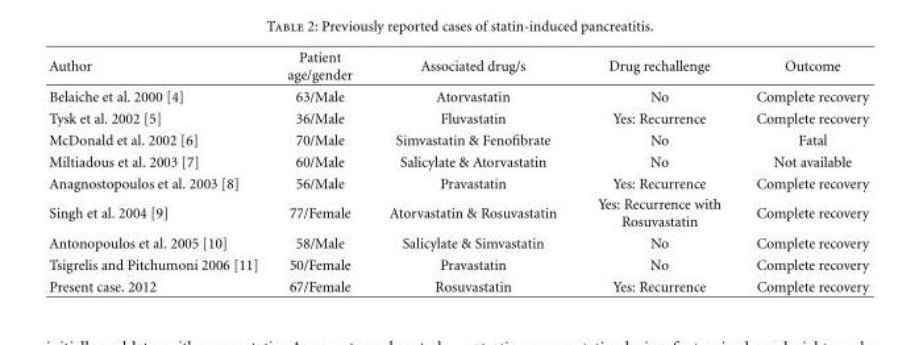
<table><thead><tr><td>Author</td><td>Patient age/gender</td><td>Associated drug/s</td><td>Drug rechallenge</td><td>Outcome</td></tr></thead><tbody><tr><td>Belaiche et al. 2000 [4]</td><td>63/Male</td><td>Atorvastatin</td><td>No</td><td>Complete recovery</td></tr><tr><td>Tysk et al. 2002 [5]</td><td>36/Male</td><td>Fluvastatin</td><td>Yes: Recurrence</td><td>Complete recovery</td></tr><tr><td>McDonald et al. 2002 [6]</td><td>70/Male</td><td>Simvastatin &amp; Fenofibrate</td><td>No</td><td>Fatal</td></tr><tr><td>Miltiadous et al. 2003 [7]</td><td>60/Male</td><td>Salicylate &amp; Atorvastatin</td><td>No</td><td>Not available</td></tr><tr><td>Anagnostopoulos et al. 2003 [8]</td><td>56/Male</td><td>Pravastatin</td><td>Yes: Recurrence</td><td>Complete recovery</td></tr><tr><td>Singh et al. 2004 [9]</td><td>77/Female</td><td>Atorvastatin &amp; Rosuvastatin</td><td>Yes: Recurrence with Rosuvastatin</td><td>Complete recovery</td></tr><tr><td>Antonopoulos et al. 2005 [10]</td><td>58/Male</td><td>Salicylate &amp; Simvastatin</td><td>No</td><td>Complete recovery</td></tr><tr><td>Tsigrelis and Pitchumoni 2006 [11]</td><td>50/Female</td><td>Pravastatin</td><td>No</td><td>Complete recovery</td></tr><tr><td>Present case. 2012</td><td>67/Female</td><td>Rosuvastatin</td><td>Yes: Recurrence</td><td>Complete recovery</td></tr></tbody></table>